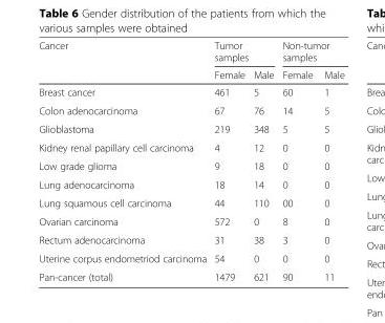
<table><thead><tr><td rowspan="2">Cancer</td><td colspan="2">Tumor samples</td><td colspan="2">Non-tumor samples</td></tr><tr><td>Female</td><td>Male</td><td>Female</td><td>Male</td></tr></thead><tbody><tr><td>Breast cancer</td><td>461</td><td>5</td><td>60</td><td>1</td></tr><tr><td>Colon adenocarcinoma</td><td>67</td><td>76</td><td>14</td><td>5</td></tr><tr><td>Glioblastoma</td><td>219</td><td>348</td><td>5</td><td>5</td></tr><tr><td>Kidney renal papillary cell carcinoma</td><td>4</td><td>12</td><td>0</td><td>0</td></tr><tr><td>Low grade glioma</td><td>9</td><td>18</td><td>0</td><td>0</td></tr><tr><td>Lung adenocarcinoma</td><td>18</td><td>14</td><td>0</td><td>0</td></tr><tr><td>Lung squamous cell carcinoma</td><td>44</td><td>110</td><td>00</td><td>0</td></tr><tr><td>Ovarian carcinoma</td><td>572</td><td>0</td><td>8</td><td>0</td></tr><tr><td>Rectum adenocarcinoma</td><td>31</td><td>38</td><td>3</td><td>0</td></tr><tr><td>Uterine corpus endometriod carcinoma</td><td>54</td><td>0</td><td>0</td><td>0</td></tr><tr><td>Pan-cancer (total)</td><td>1479</td><td>621</td><td>90</td><td>11</td></tr></tbody></table>